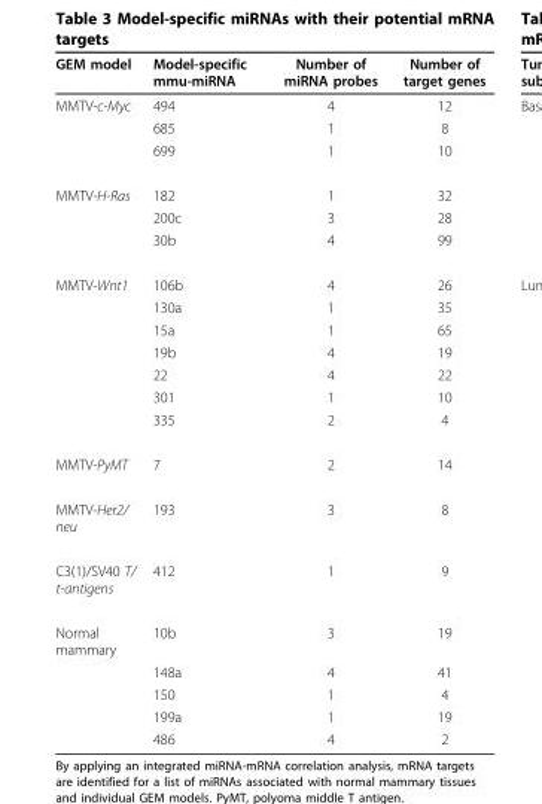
<table><thead><tr><td>GEM model</td><td>Model-specific mmu-miRNA</td><td>Number of miRNA probes</td><td>Number of target genes</td></tr></thead><tbody><tr><td rowspan="3">MMTV-c-Myc</td><td>494</td><td>4</td><td>12</td></tr><tr><td>685</td><td>1</td><td>8</td></tr><tr><td>699</td><td>1</td><td>10</td></tr><tr><td rowspan="3">MMTV-H-Ras</td><td>182</td><td>1</td><td>32</td></tr><tr><td>200c</td><td>3</td><td>28</td></tr><tr><td>30b</td><td>4</td><td>99</td></tr><tr><td rowspan="7">MMTV-Wnt1</td><td>106b</td><td>4</td><td>26</td></tr><tr><td>130a</td><td>1</td><td>35</td></tr><tr><td>15a</td><td>1</td><td>65</td></tr><tr><td>19b</td><td>4</td><td>19</td></tr><tr><td>22</td><td>4</td><td>22</td></tr><tr><td>301</td><td>1</td><td>10</td></tr><tr><td>335</td><td>2</td><td>4</td></tr><tr><td>MMTV-PyMT</td><td>7</td><td>2</td><td>14</td></tr><tr><td>MMTV-Her2/ neu</td><td>193</td><td>3</td><td>8</td></tr><tr><td>C3(1)/SV40 T/ t-antigens</td><td>412</td><td>1</td><td>9</td></tr><tr><td rowspan="5">Normal mammary</td><td>10b</td><td>3</td><td>19</td></tr><tr><td>148a</td><td>4</td><td>41</td></tr><tr><td>150</td><td>1</td><td>4</td></tr><tr><td>199a</td><td>1</td><td>19</td></tr><tr><td>486</td><td>4</td><td>2</td></tr></tbody></table>